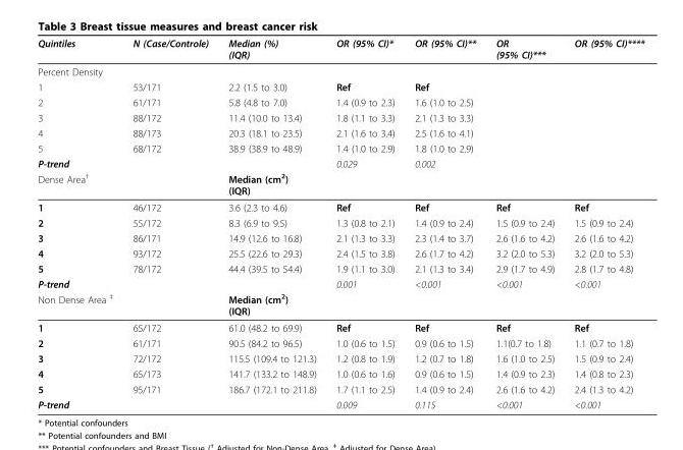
<table><thead><tr><td>Quintiles</td><td>N (Case/Controle)</td><td>Median (%) (IQR)</td><td>OR (95% CI)*</td><td>OR (95% CI)**</td><td>OR (95% CI)***</td><td>OR (95% CI)****</td></tr></thead><tbody><tr><td colspan="7">Percent Density</td></tr><tr><td>1</td><td>53/171</td><td>2.2 (1.5 to 3.0)</td><td>Ref</td><td>Ref</td><td></td><td></td></tr><tr><td>2</td><td>61/171</td><td>5.8 (4.8 to 7.0)</td><td>1.4 (0.9 to 2.3)</td><td>1.6 (1.0 to 2.5)</td><td></td><td></td></tr><tr><td>3</td><td>88/172</td><td>11.4 (10.0 to 13.4)</td><td>1.8 (1.1 to 3.3)</td><td>2.1 (1.3 to 3.3)</td><td></td><td></td></tr><tr><td>4</td><td>88/173</td><td>20.3 (18.1 to 23.5)</td><td>2.1 (1.6 to 3.4)</td><td>2.5 (1.6 to 4.1)</td><td></td><td></td></tr><tr><td>5</td><td>68/172</td><td>38.9 (38.9 to 48.9)</td><td>1.4 (1.0 to 2.9)</td><td>1.8 (1.0 to 2.9)</td><td></td><td></td></tr><tr><td>P-trend</td><td></td><td></td><td>0.029</td><td>0.002</td><td></td><td></td></tr><tr><td>Dense Area<sup>†</sup></td><td></td><td>Median (cm<sup>2</sup>) (IQR)</td><td></td><td></td><td></td><td></td></tr><tr><td>1</td><td>46/172</td><td>3.6 (2.3 to 4.6)</td><td>Ref</td><td>Ref</td><td>Ref</td><td>Ref</td></tr><tr><td>2</td><td>55/172</td><td>8.3 (6.9 to 9.5)</td><td>1.3 (0.8 to 2.1)</td><td>1.4 (0.9 to 2.4)</td><td>1.5 (0.9 to 2.4)</td><td>1.5 (0.9 to 2.4)</td></tr><tr><td>3</td><td>86/171</td><td>14.9 (12.6 to 16.8)</td><td>2.1 (1.3 to 3.3)</td><td>2.3 (1.4 to 3.7)</td><td>2.6 (1.6 to 4.2)</td><td>2.6 (1.6 to 4.2)</td></tr><tr><td>4</td><td>93/172</td><td>25.5 (22.6 to 29.3)</td><td>2.4 (1.5 to 3.8)</td><td>2.6 (1.7 to 4.2)</td><td>3.2 (2.0 to 5.3)</td><td>3.2 (2.0 to 5.3)</td></tr><tr><td>5</td><td>78/172</td><td>44.4 (39.5 to 54.4)</td><td>1.9 (1.1 to 3.0)</td><td>2.1 (1.3 to 3.4)</td><td>2.9 (1.7 to 4.9)</td><td>2.8 (1.7 to 4.8)</td></tr><tr><td>P-trend</td><td></td><td></td><td>0.001</td><td>&lt;0.001</td><td>&lt;0.001</td><td>&lt;0.001</td></tr><tr><td>Non Dense Area <sup>‡</sup></td><td></td><td>Median (cm<sup>2</sup>) (IQR)</td><td></td><td></td><td></td><td></td></tr><tr><td>1</td><td>65/172</td><td>61.0 (48.2 to 69.9)</td><td>Ref</td><td>Ref</td><td>Ref</td><td>Ref</td></tr><tr><td>2</td><td>61/171</td><td>90.5 (84.2 to 96.5)</td><td>1.0 (0.6 to 1.5)</td><td>0.9 (0.6 to 1.5)</td><td>1.1(0.7 to 1.8)</td><td>1.1 (0.7 to 1.8)</td></tr><tr><td>3</td><td>72/172</td><td>115.5 (109.4 to 121.3)</td><td>1.2 (0.8 to 1.9)</td><td>1.2 (0.7 to 1.8)</td><td>1.6 (1.0 to 2.5)</td><td>1.5 (0.9 to 2.4)</td></tr><tr><td>4</td><td>65/173</td><td>141.7 (133.2 to 148.9)</td><td>1.0 (0.6 to 1.6)</td><td>0.9 (0.6 to 1.5)</td><td>1.4 (0.9 to 2.3)</td><td>1.4 (0.8 to 2.3)</td></tr><tr><td>5</td><td>95/171</td><td>186.7 (172.1 to 211.8)</td><td>1.7 (1.1 to 2.5)</td><td>1.4 (0.9 to 2.4)</td><td>2.6 (1.6 to 4.2)</td><td>2.4 (1.3 to 4.2)</td></tr><tr><td>P-trend</td><td></td><td></td><td>0.009</td><td>0.115</td><td>&lt;0.001</td><td>&lt;0.001</td></tr></tbody></table>